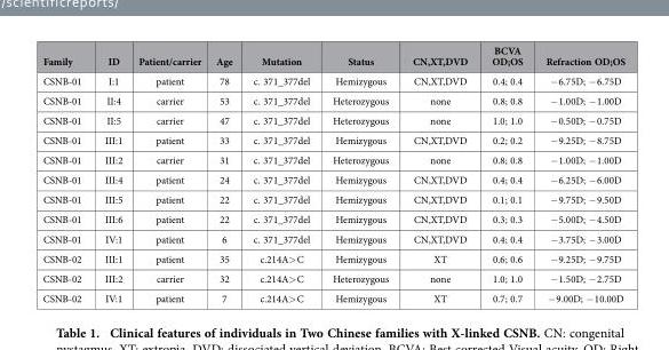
<table><thead><tr><td>Family</td><td>ID</td><td>Patient/carrier</td><td>Age</td><td>Mutation</td><td>Status</td><td>CN,XT,DVD</td><td>BCVA OD;OS</td><td>Refraction OD;OS</td></tr></thead><tbody><tr><td>CSNB-01</td><td>I:1</td><td>patient</td><td>78</td><td>c. 371_377del</td><td>Hemizygous</td><td>CN,XT,DVD</td><td>0.4; 0.4</td><td>− 6.75D; − 6.75D</td></tr><tr><td>CSNB-01</td><td>II:4</td><td>carrier</td><td>53</td><td>c. 371_377del</td><td>Heterozygous</td><td>none</td><td>0.8; 0.8</td><td>− 1.00D; − 1.00D</td></tr><tr><td>CSNB-01</td><td>II:5</td><td>carrier</td><td>47</td><td>c. 371_377del</td><td>Heterozygous</td><td>none</td><td>1.0; 1.0</td><td>− 0.50D; − 0.75D</td></tr><tr><td>CSNB-01</td><td>III:1</td><td>patient</td><td>33</td><td>c. 371_377del</td><td>Hemizygous</td><td>CN,XT,DVD</td><td>0.2; 0.2</td><td>− 9.25D; − 8.75D</td></tr><tr><td>CSNB-01</td><td>III:2</td><td>carrier</td><td>31</td><td>c. 371_377del</td><td>Heterozygous</td><td>none</td><td>0.8; 0.8</td><td>− 1.00D; − 1.00D</td></tr><tr><td>CSNB-01</td><td>III:4</td><td>patient</td><td>24</td><td>c. 371_377del</td><td>Hemizygous</td><td>CN,XT,DVD</td><td>0.4; 0.4</td><td>− 6.25D; − 6.00D</td></tr><tr><td>CSNB-01</td><td>III:5</td><td>patient</td><td>22</td><td>c. 371_377del</td><td>Hemizygous</td><td>CN,XT,DVD</td><td>0.1; 0.1</td><td>− 9.75D; − 9.50D</td></tr><tr><td>CSNB-01</td><td>III:6</td><td>patient</td><td>22</td><td>c. 371_377del</td><td>Hemizygous</td><td>CN,XT,DVD</td><td>0.3; 0.3</td><td>− 5.00D; − 4.50D</td></tr><tr><td>CSNB-01</td><td>IV:1</td><td>patient</td><td>6</td><td>c. 371_377del</td><td>Hemizygous</td><td>CN,XT,DVD</td><td>0.4; 0.4</td><td>− 3.75D; − 3.00D</td></tr><tr><td>CSNB-02</td><td>III:1</td><td>patient</td><td>35</td><td>c.214A&gt; C</td><td>Hemizygous</td><td>XT</td><td>0.6; 0.6</td><td>− 9.25D; − 9.75D</td></tr><tr><td>CSNB-02</td><td>III:2</td><td>carrier</td><td>32</td><td>c.214A&gt; C</td><td>Heterozygous</td><td>none</td><td>1.0; 1.0</td><td>− 1.50D; − 2.75D</td></tr><tr><td>CSNB-02</td><td>IV:1</td><td>patient</td><td>7</td><td>c.214A&gt; C</td><td>Hemizygous</td><td>XT</td><td>0.7; 0.7</td><td>− 9.00D; − 10.00D</td></tr></tbody></table>